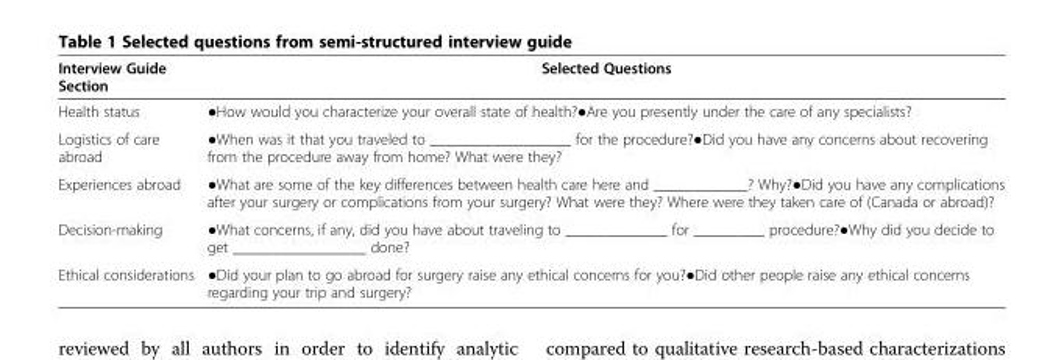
<table><thead><tr><td>Interview Guide Section</td><td>Selected Questions</td></tr></thead><tbody><tr><td>Health status</td><td>●How would you characterize your overall state of health?●Are you presently under the care of any specialists?</td></tr><tr><td>Logistics of care abroad</td><td>●When was it that you traveled to __________________ for the procedure?●Did you have any concerns about recovering from the procedure away from home? What were they?</td></tr><tr><td>Experiences abroad</td><td>●What are some of the key differences between health care here and ____________? Why?●Did you have any complications after your surgery or complications from your surgery? What were they? Where were they taken care of (Canada or abroad)?</td></tr><tr><td>Decision-making</td><td>●What concerns, if any, did you have about traveling to _____________ for _________ procedure?●Why did you decide to get _________________ done?</td></tr><tr><td>Ethical considerations</td><td>●Did your plan to go abroad for surgery raise any ethical concerns for you?●Did other people raise any ethical concerns regarding your trip and surgery?</td></tr></tbody></table>